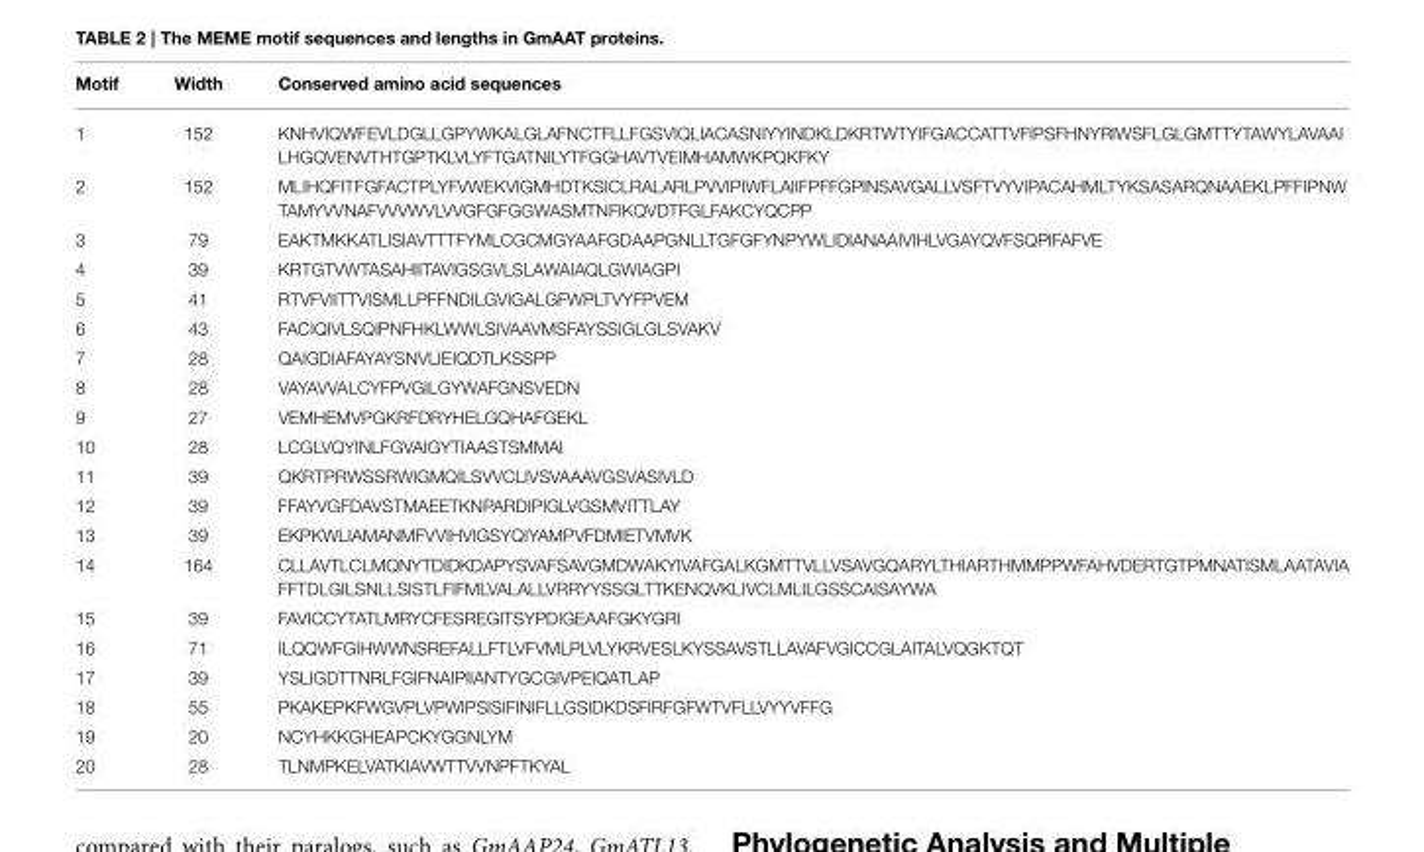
<table><thead><tr><td>Motif</td><td>Width</td><td>Conserved amino acid sequences</td></tr></thead><tbody><tr><td>1</td><td>152</td><td>KNHVIQWFEVLDGLLGPYWKALGLAFNCTFLLFGSVIQLIACASNIYYINDKLDKRTWTYIFGACCATTVFIPSFHNYRIWSFLGLGMTTYTAWYLAVAAI LHGQVENVTHTGPTKLVLYFTGATNILYTFGGHAVTVEIMHAMWKPQKFKY</td></tr><tr><td>2</td><td>152</td><td>MLIHQFITFGFACTPLYFVWEKVIGMHDTKSICLRALARLPVVIPIWFLAIIFPFFGPINSAVGALLVSFTVYVIPACAHMLTYKSASARQNAAEKLPFFIPNW TAMYVVNAFVVVWVLVVGFGFGGWASMTNFIKQVDTFGLFAKCYQCPP</td></tr><tr><td>3</td><td>79</td><td>EAKTMKKATLISIAVTTTFYMLCGCMGYAAFGDAAPGNLLTGFGFYNPYWLIDIANAAIVIHLVGAYQVFSQPIFAFVE</td></tr><tr><td>4</td><td>39</td><td>KRTGTVWTASAHIITAVIGSGVLSLAWAIAQLGWIAGPI</td></tr><tr><td>5</td><td>41</td><td>RTVFVIITTVISMLLPFFNDILGVIGALGFWPLTVYFPVEM</td></tr><tr><td>6</td><td>43</td><td>FACIQIVLSQIPNFHKLWWLSIVAAVMSFAYSSIGLGLSVAKV</td></tr><tr><td>7</td><td>28</td><td>QAIGDIAFAYAYSNVLIEIQDTLKSSPP</td></tr><tr><td>8</td><td>28</td><td>VAYAVVALCYFPVGILGYWAFGNSVEDN</td></tr><tr><td>9</td><td>27</td><td>VEMHEMVPGKRFDRYHELGQHAFGEKL</td></tr><tr><td>10</td><td>28</td><td>LCGLVQYINLFGVAIGYTIAASTSMMAI</td></tr><tr><td>11</td><td>39</td><td>QKRTPRWSSRWIGMQILSVVCLIVSVAAAVGSVASIVLD</td></tr><tr><td>12</td><td>39</td><td>FFAYVGFDAVSTMAEETKNPARDIPIGLVGSMVITTLAY</td></tr><tr><td>13</td><td>39</td><td>EKPKWLIAMANMFVVIHVIGSYQIYAMPVFDMIETVMVK</td></tr><tr><td>14</td><td>164</td><td>CLLAVTLCLMQNYTDIDKDAPYSVAFSAVGMDWAKYIVAFGALKGMTTVLLVSAVGQARYLTHIARTHMMPPWFAHVDERTGTPMNATISMLAATAVIA FFTDLGILSNLLSISTLFIFMLVALALLVRRYYSSGLTTKENQVKLIVCLMLILGSSCAISAYWA</td></tr><tr><td>15</td><td>39</td><td>FAVICCYTATLMRYCFESREGITSYPDIGEAAFGKYGRI</td></tr><tr><td>16</td><td>71</td><td>ILQQWFGIHWWNSREFALLFTLVFVMLPLVLYKRVESLKYSSAVSTLLAVAFVGICCGLAITALVQGKTQT</td></tr><tr><td>17</td><td>39</td><td>YSLIGDTTNRLFGIFNAIPIIANTYGCGIVPEIQATLAP</td></tr><tr><td>18</td><td>55</td><td>PKAKEPKFWGVPLVPWIPSISIFINIFLLGSIDKDSFIRFGFWTVFLLVYYVFFG</td></tr><tr><td>19</td><td>20</td><td>NCYHKKGHEAPCKYGGNLYM</td></tr><tr><td>20</td><td>28</td><td>TLNMPKELVATKIAVWTTVVNPFTKYAL</td></tr></tbody></table>